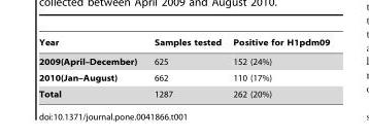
<table><thead><tr><td>Year</td><td>Samples tested</td><td>Positive for H1pdm09</td></tr></thead><tbody><tr><td>2009(April–December)</td><td>625</td><td>152 (24%)</td></tr><tr><td>2010(Jan–August)</td><td>662</td><td>110 (17%)</td></tr><tr><td>Total</td><td>1287</td><td>262 (20%)</td></tr></tbody></table>